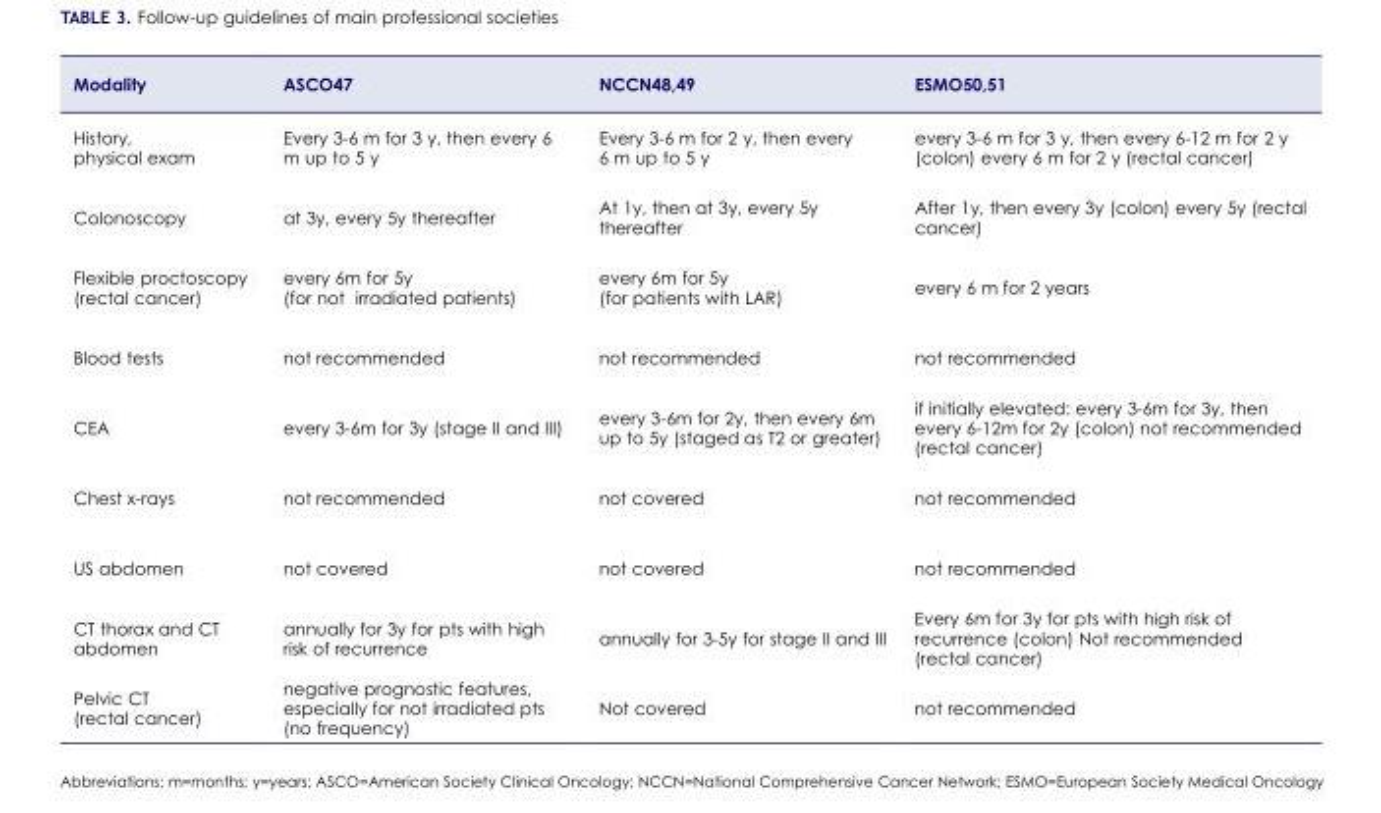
<table><thead><tr><td>Modality</td><td>ASCO<sup>47</sup></td><td>NCCN<sup>48</sup>,<sup>49</sup></td><td>ESMO<sup>50</sup>,<sup>51</sup></td></tr></thead><tbody><tr><td>History, physical exam</td><td>Every 3-6 m for 3 y, then every 6 m up to 5 y</td><td>Every 3-6 m for 2 y, then every 6 m up to 5 y</td><td>every 3-6 m for 3 y, then every 6-12 m for 2 y (colon) every 6 m for 2 y (rectal cancer)</td></tr><tr><td>Colonoscopy</td><td>at 3y, every 5y thereafter</td><td>At 1y, then at 3y, every 5y thereafter</td><td>After 1y, then every 3y (colon) every 5y (rectal cancer)</td></tr><tr><td>Flexible proctoscopy (rectal cancer)</td><td>every 6m for 5y (for not irradiated patients)</td><td>every 6m for 5y (for patients with LAR)</td><td>every 6 m for 2 years</td></tr><tr><td>Blood tests</td><td>not recommended</td><td>not recommended</td><td>not recommended</td></tr><tr><td>CEA</td><td>every 3-6m for 3y (stage II and III)</td><td>every 3-6m for 2y, then every 6m up to 5y (staged as T2 or greater)</td><td>if initially elevated: every 3-6m for 3y, then every 6-12m for 2y (colon) not recommended (rectal cancer)</td></tr><tr><td>Chest x-rays</td><td>not recommended</td><td>not covered</td><td>not recommended</td></tr><tr><td>US abdomen</td><td>not covered</td><td>not covered</td><td>not recommended</td></tr><tr><td>CT thorax and CT abdomen</td><td>annually for 3y for pts with high risk of recurrence</td><td>annually for 3-5y for stage II and III</td><td>Every 6m for 3y for pts with high risk of recurrence (colon) Not recommended (rectal cancer)</td></tr><tr><td>Pelvic CT (rectal cancer)</td><td>negative prognostic features, especially for not irradiated pts (no frequency)</td><td>Not covered</td><td>not recommended</td></tr></tbody></table>